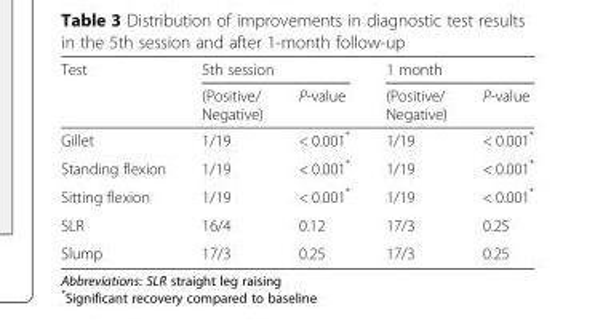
<table><thead><tr><td rowspan="2">Test</td><td colspan="2">5th session</td><td colspan="2">1 month</td></tr><tr><td>(Positive/ Negative)</td><td>P-value</td><td>(Positive/ Negative)</td><td>P-value</td></tr></thead><tbody><tr><td>Gillet</td><td>1/19</td><td>&lt; 0.001*</td><td>1/19</td><td>&lt; 0.001*</td></tr><tr><td>Standing flexion</td><td>1/19</td><td>&lt; 0.001*</td><td>1/19</td><td>&lt; 0.001*</td></tr><tr><td>Sitting flexion</td><td>1/19</td><td>&lt; 0.001*</td><td>1/19</td><td>&lt; 0.001*</td></tr><tr><td>SLR</td><td>16/4</td><td>0.12</td><td>17/3</td><td>0.25</td></tr><tr><td>Slump</td><td>17/3</td><td>0.25</td><td>17/3</td><td>0.25</td></tr></tbody></table>